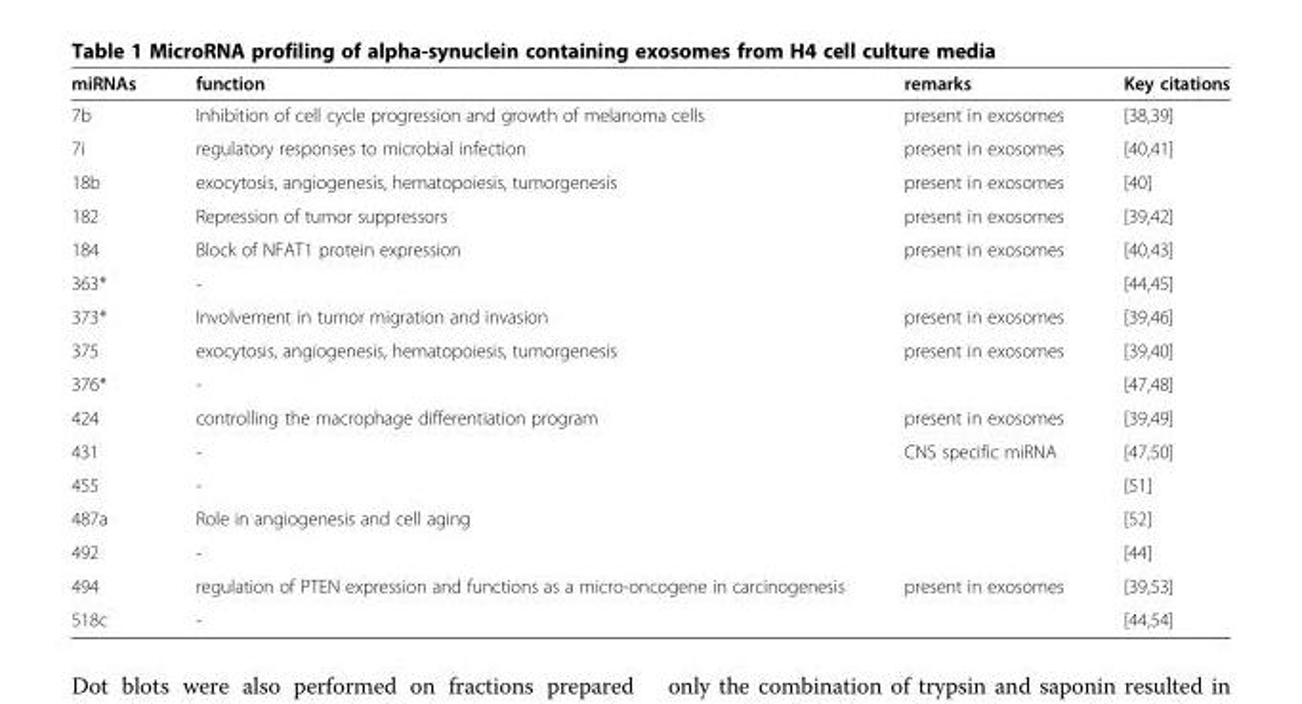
<table><thead><tr><td>miRNAs</td><td>function</td><td>remarks</td><td>Key citations</td></tr></thead><tbody><tr><td>7b</td><td>Inhibition of cell cycle progression and growth of melanoma cells</td><td>present in exosomes</td><td>[38,39]</td></tr><tr><td>7i</td><td>regulatory responses to microbial infection</td><td>present in exosomes</td><td>[40,41]</td></tr><tr><td>18b</td><td>exocytosis, angiogenesis, hematopoiesis, tumorgenesis</td><td>present in exosomes</td><td>[40]</td></tr><tr><td>182</td><td>Repression of tumor suppressors</td><td>present in exosomes</td><td>[39,42]</td></tr><tr><td>184</td><td>Block of NFAT1 protein expression</td><td>present in exosomes</td><td>[40,43]</td></tr><tr><td>363*</td><td>-</td><td></td><td>[44,45]</td></tr><tr><td>373*</td><td>Involvement in tumor migration and invasion</td><td>present in exosomes</td><td>[39,46]</td></tr><tr><td>375</td><td>exocytosis, angiogenesis, hematopoiesis, tumorgenesis</td><td>present in exosomes</td><td>[39,40]</td></tr><tr><td>376*</td><td>-</td><td></td><td>[47,48]</td></tr><tr><td>424</td><td>controlling the macrophage differentiation program</td><td>present in exosomes</td><td>[39,49]</td></tr><tr><td>431</td><td>-</td><td>CNS specific miRNA</td><td>[47,50]</td></tr><tr><td>455</td><td>-</td><td></td><td>[51]</td></tr><tr><td>487a</td><td>Role in angiogenesis and cell aging</td><td></td><td>[52]</td></tr><tr><td>492</td><td>-</td><td></td><td>[44]</td></tr><tr><td>494</td><td>regulation of PTEN expression and functions as a micro-oncogene in carcinogenesis</td><td>present in exosomes</td><td>[39,53]</td></tr><tr><td>518c</td><td>-</td><td></td><td>[44,54]</td></tr></tbody></table>